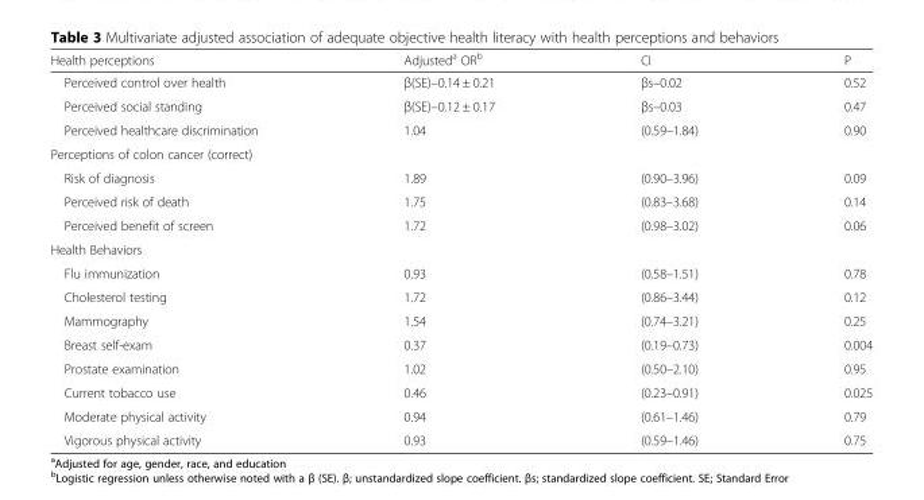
<table><thead><tr><td>Health perceptions</td><td>Adjusted<sup>a</sup> OR<sup>b</sup></td><td>CI</td><td>P</td></tr></thead><tbody><tr><td>Perceived control over health</td><td>β(SE)–0.14 ± 0.21</td><td>βs–0.02</td><td>0.52</td></tr><tr><td>Perceived social standing</td><td>β(SE)–0.12 ± 0.17</td><td>βs–0.03</td><td>0.47</td></tr><tr><td>Perceived healthcare discrimination</td><td>1.04</td><td>(0.59–1.84)</td><td>0.90</td></tr><tr><td colspan="4">Perceptions of colon cancer (correct)</td></tr><tr><td>Risk of diagnosis</td><td>1.89</td><td>(0.90–3.96)</td><td>0.09</td></tr><tr><td>Perceived risk of death</td><td>1.75</td><td>(0.83–3.68)</td><td>0.14</td></tr><tr><td>Perceived benefit of screen</td><td>1.72</td><td>(0.98–3.02)</td><td>0.06</td></tr><tr><td colspan="4">Health Behaviors</td></tr><tr><td>Flu immunization</td><td>0.93</td><td>(0.58–1.51)</td><td>0.78</td></tr><tr><td>Cholesterol testing</td><td>1.72</td><td>(0.86–3.44)</td><td>0.12</td></tr><tr><td>Mammography</td><td>1.54</td><td>(0.74–3.21)</td><td>0.25</td></tr><tr><td>Breast self-exam</td><td>0.37</td><td>(0.19–0.73)</td><td>0.004</td></tr><tr><td>Prostate examination</td><td>1.02</td><td>(0.50–2.10)</td><td>0.95</td></tr><tr><td>Current tobacco use</td><td>0.46</td><td>(0.23–0.91)</td><td>0.025</td></tr><tr><td>Moderate physical activity</td><td>0.94</td><td>(0.61–1.46)</td><td>0.79</td></tr><tr><td>Vigorous physical activity</td><td>0.93</td><td>(0.59–1.46)</td><td>0.75</td></tr></tbody></table>